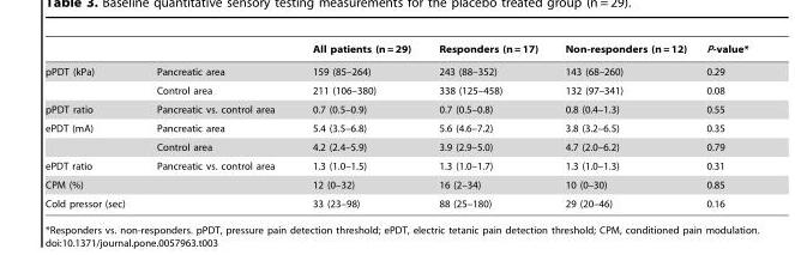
<table><thead><tr><td></td><td></td><td>All patients (n = 29)</td><td>Responders (n = 17)</td><td>Non-responders (n = 12)</td><td>P-value*</td></tr></thead><tbody><tr><td rowspan="2">pPDT (kPa)</td><td>Pancreatic area</td><td>159 (85–264)</td><td>243 (88–352)</td><td>143 (68–260)</td><td>0.29</td></tr><tr><td>Control area</td><td>211 (106–380)</td><td>338 (125–458)</td><td>132 (97–341)</td><td>0.08</td></tr><tr><td>pPDT ratio</td><td>Pancreatic vs. control area</td><td>0.7 (0.5–0.9)</td><td>0.7 (0.5–0.8)</td><td>0.8 (0.4–1.3)</td><td>0.55</td></tr><tr><td rowspan="2">ePDT (mA)</td><td>Pancreatic area</td><td>5.4 (3.5–6.8)</td><td>5.6 (4.6–7.2)</td><td>3.8 (3.2–6.5)</td><td>0.35</td></tr><tr><td>Control area</td><td>4.2 (2.4–5.9)</td><td>3.9 (2.9–5.0)</td><td>4.7 (2.0–6.2)</td><td>0.79</td></tr><tr><td>ePDT ratio</td><td>Pancreatic vs. control area</td><td>1.3 (1.0–1.5)</td><td>1.3 (1.0–1.7)</td><td>1.3 (1.0–1.3)</td><td>0.31</td></tr><tr><td>CPM (%)</td><td></td><td>12 (0–32)</td><td>16 (2–34)</td><td>10 (0–30)</td><td>0.85</td></tr><tr><td>Cold pressor (sec)</td><td></td><td>33 (23–98)</td><td>88 (25–180)</td><td>29 (20–46)</td><td>0.16</td></tr></tbody></table>